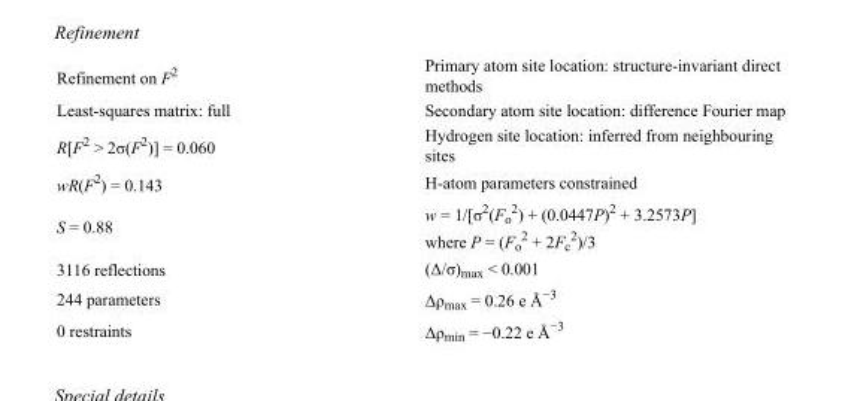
<table><tbody><tr><td>Refinement on F<sup>2</sup></td><td>Primary atom site location: structure-invariant direct methods</td></tr><tr><td>Least-squares matrix: full</td><td>Secondary atom site location: difference Fourier map</td></tr><tr><td>R[F<sup>2</sup> &gt; 2σ(F<sup>2</sup>)] = 0.060</td><td>Hydrogen site location: inferred from neighbouring sites</td></tr><tr><td>wR(F<sup>2</sup>) = 0.143</td><td>H-atom parameters constrained</td></tr><tr><td>S = 0.88</td><td>w = 1/[σ<sup>2</sup>(F<sub>o</sub> <sup>2</sup>) + (0.0447P)<sup>2</sup> + 3.2573P] where P = (F<sub>o</sub> <sup>2</sup> + 2F<sub>c</sub> <sup>2</sup>)/3</td></tr><tr><td>3116 reflections</td><td>(Δ/σ)<sub>max</sub> &lt; 0.001</td></tr><tr><td>244 parameters</td><td>Δρ<sub>max</sub> = 0.26 e Å<sup>−3</sup></td></tr><tr><td>0 restraints</td><td>Δρ<sub>min</sub> = −0.22 e Å<sup>−3</sup></td></tr></tbody></table>